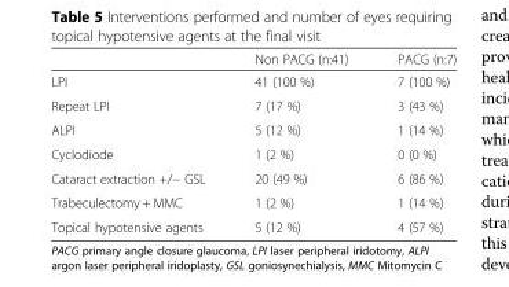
<table><thead><tr><td></td><td>Non PACG (n:41)</td><td>PACG (n:7)</td></tr></thead><tbody><tr><td>LPI</td><td>41 (100 %)</td><td>7 (100 %)</td></tr><tr><td>Repeat LPI</td><td>7 (17 %)</td><td>3 (43 %)</td></tr><tr><td>ALPI</td><td>5 (12 %)</td><td>1 (14 %)</td></tr><tr><td>Cyclodiode</td><td>1 (2 %)</td><td>0 (0 %)</td></tr><tr><td>Cataract extraction +/− GSL</td><td>20 (49 %)</td><td>6 (86 %)</td></tr><tr><td>Trabeculectomy + MMC</td><td>1 (2 %)</td><td>1 (14 %)</td></tr><tr><td>Topical hypotensive agents</td><td>5 (12 %)</td><td>4 (57 %)</td></tr></tbody></table>